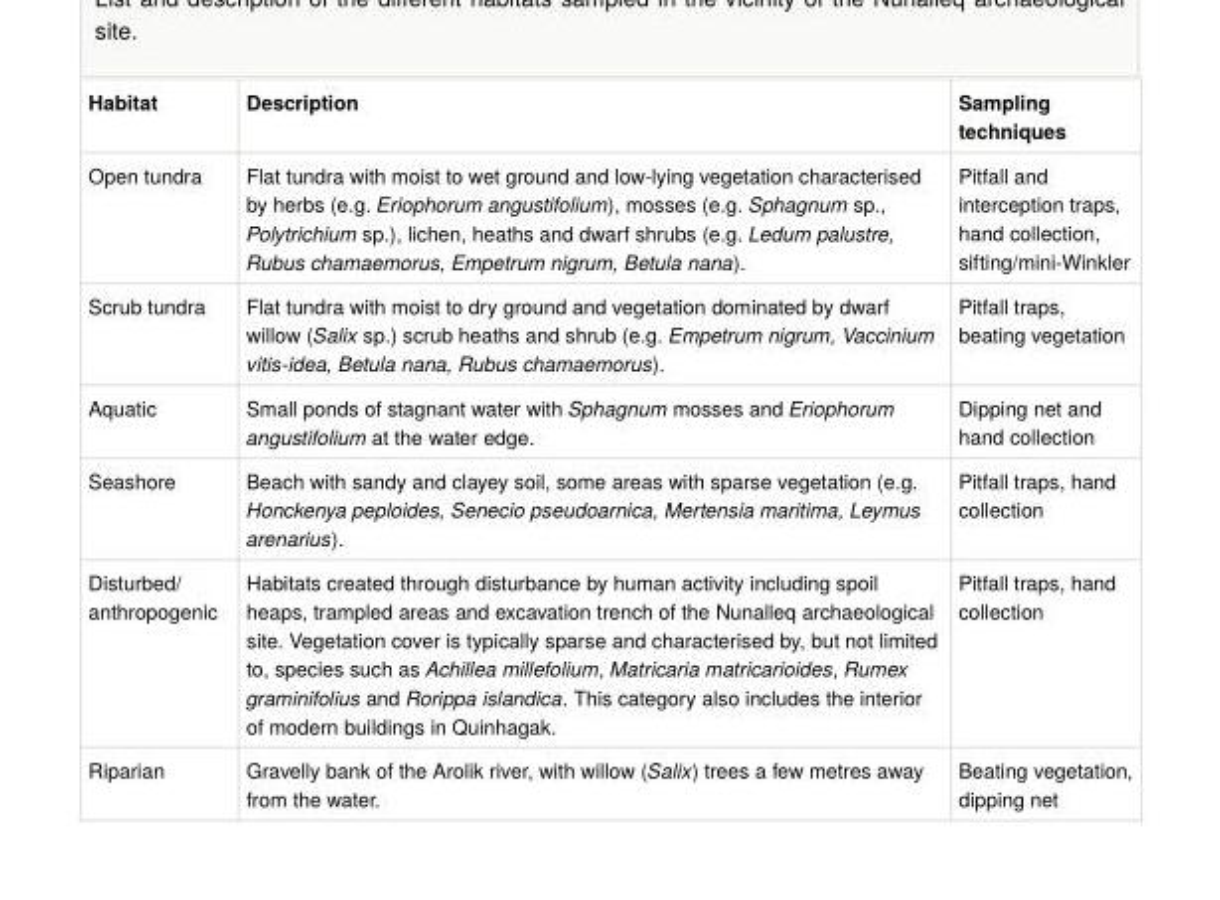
<table><tbody><tr><td>Habitat</td><td>Description</td><td>Sampling techniques</td></tr><tr><td>Open tundra</td><td>Flat tundra with moist to wet ground and low-lying vegetation characterised by herbs (e.g. Eriophorum angustifolium), mosses (e.g. Sphagnum sp., Polytrichium sp.), lichen, heaths and dwarf shrubs (e.g. Ledum palustre, Rubus chamaemorus, Empetrum nigrum, Betula nana).</td><td>Pitfall and interception traps, hand collection, sifting/mini-Winkler</td></tr><tr><td>Scrub tundra</td><td>Flat tundra with moist to dry ground and vegetation dominated by dwarf willow (Salix sp.) scrub heaths and shrub (e.g. Empetrum nigrum, Vaccinium vitis-idea, Betula nana, Rubus chamaemorus).</td><td>Pitfall traps, beating vegetation</td></tr><tr><td>Aquatic</td><td>Small ponds of stagnant water with Sphagnum mosses and Eriophorum angustifolium at the water edge.</td><td>Dipping net and hand collection</td></tr><tr><td>Seashore</td><td>Beach with sandy and clayey soil, some areas with sparse vegetation (e.g. Honckenya peploides, Senecio pseudoarnica, Mertensia maritima, Leymus arenarius).</td><td>Pitfall traps, hand collection</td></tr><tr><td>Disturbed/ anthropogenic</td><td>Habitats created through disturbance by human activity including spoil heaps, trampled areas and excavation trench of the Nunalleq archaeological site. Vegetation cover is typically sparse and characterised by, but not limited to, species such as Achillea millefolium, Matricaria matricarioides, Rumex graminifolius and Rorippa islandica. This category also includes the interior of modern buildings in Quinhagak.</td><td>Pitfall traps, hand collection</td></tr><tr><td>Riparian</td><td>Gravelly bank of the Arolik river, with willow (Salix) trees a few metres away from the water.</td><td>Beating vegetation, dipping net</td></tr></tbody></table>